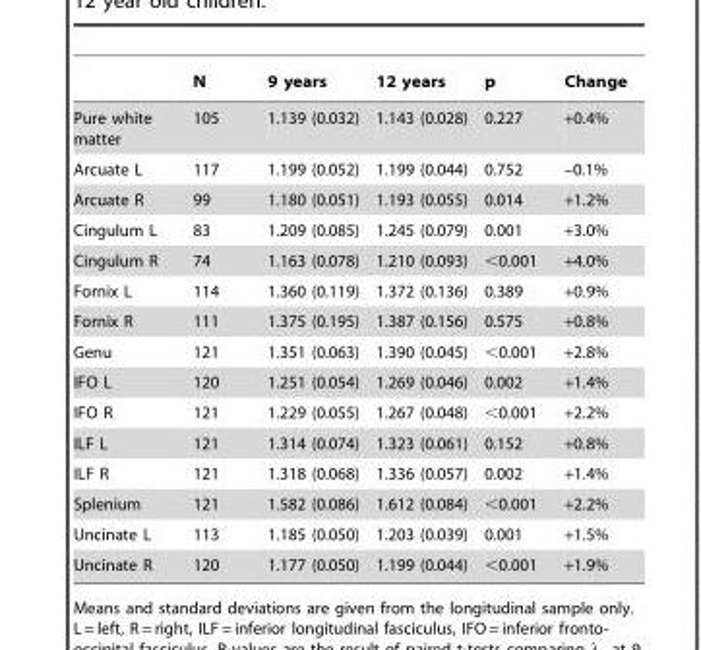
<table><thead><tr><td></td><td>N</td><td>9 years</td><td>12 years</td><td>p</td><td>Change</td></tr></thead><tbody><tr><td>Pure white matter</td><td>105</td><td>1.139 (0.032)</td><td>1.143 (0.028)</td><td>0.227</td><td>+0.4%</td></tr><tr><td>Arcuate L</td><td>117</td><td>1.199 (0.052)</td><td>1.199 (0.044)</td><td>0.752</td><td>–0.1%</td></tr><tr><td>Arcuate R</td><td>99</td><td>1.180 (0.051)</td><td>1.193 (0.055)</td><td>0.014</td><td>+1.2%</td></tr><tr><td>Cingulum L</td><td>83</td><td>1.209 (0.085)</td><td>1.245 (0.079)</td><td>0.001</td><td>+3.0%</td></tr><tr><td>Cingulum R</td><td>74</td><td>1.163 (0.078)</td><td>1.210 (0.093)</td><td>&lt;0.001</td><td>+4.0%</td></tr><tr><td>Fornix L</td><td>114</td><td>1.360 (0.119)</td><td>1.372 (0.136)</td><td>0.389</td><td>+0.9%</td></tr><tr><td>Fornix R</td><td>111</td><td>1.375 (0.195)</td><td>1.387 (0.156)</td><td>0.575</td><td>+0.8%</td></tr><tr><td>Genu</td><td>121</td><td>1.351 (0.063)</td><td>1.390 (0.045)</td><td>&lt;0.001</td><td>+2.8%</td></tr><tr><td>IFO L</td><td>120</td><td>1.251 (0.054)</td><td>1.269 (0.046)</td><td>0.002</td><td>+1.4%</td></tr><tr><td>IFO R</td><td>121</td><td>1.229 (0.055)</td><td>1.267 (0.048)</td><td>&lt;0.001</td><td>+2.2%</td></tr><tr><td>ILF L</td><td>121</td><td>1.314 (0.074)</td><td>1.323 (0.061)</td><td>0.152</td><td>+0.8%</td></tr><tr><td>ILF R</td><td>121</td><td>1.318 (0.068)</td><td>1.336 (0.057)</td><td>0.002</td><td>+1.4%</td></tr><tr><td>Splenium</td><td>121</td><td>1.582 (0.086)</td><td>1.612 (0.084)</td><td>&lt;0.001</td><td>+2.2%</td></tr><tr><td>Uncinate L</td><td>113</td><td>1.185 (0.050)</td><td>1.203 (0.039)</td><td>0.001</td><td>+1.5%</td></tr><tr><td>Uncinate R</td><td>120</td><td>1.177 (0.050)</td><td>1.199 (0.044)</td><td>&lt;0.001</td><td>+1.9%</td></tr></tbody></table>